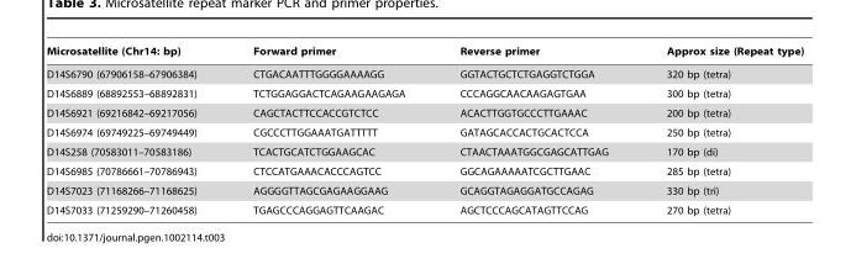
<table><thead><tr><td>Microsatellite (Chr14: bp)</td><td>Forward primer</td><td>Reverse primer</td><td>Approx size (Repeat type)</td></tr></thead><tbody><tr><td>D14S6790 (67906158–67906384)</td><td>CTGACAATTTGGGGAAAAGG</td><td>GGTACTGCTCTGAGGTCTGGA</td><td>320 bp (tetra)</td></tr><tr><td>D14S6889 (68892553–68892831)</td><td>TCTGGAGGACTCAGAAGAAGAGA</td><td>CCCAGGCAACAAGAGTGAA</td><td>300 bp (tetra)</td></tr><tr><td>D14S6921 (69216842–69217056)</td><td>CAGCTACTTCCACCGTCTCC</td><td>ACACTTGGTGCCCTTGAAAC</td><td>200 bp (tetra)</td></tr><tr><td>D14S6974 (69749225–69749449)</td><td>CGCCCTTGGAAATGATTTTT</td><td>GATAGCACCACTGCACTCCA</td><td>250 bp (tetra)</td></tr><tr><td>D14S258 (70583011–70583186)</td><td>TCACTGCATCTGGAAGCAC</td><td>CTAACTAAATGGCGAGCATTGAG</td><td>170 bp (di)</td></tr><tr><td>D14S6985 (70786661–70786943)</td><td>CTCCATGAAACACCCAGTCC</td><td>GGCAGAAAAATCGCTTGAAC</td><td>285 bp (tetra)</td></tr><tr><td>D14S7023 (71168266–71168625)</td><td>AGGGGTTAGCGAGAAGGAAG</td><td>GCAGGTAGAGGATGCCAGAG</td><td>330 bp (tri)</td></tr><tr><td>D14S7033 (71259290–71260458)</td><td>TGAGCCCAGGAGTTCAAGAC</td><td>AGCTCCCAGCATAGTTCCAG</td><td>270 bp (tetra)</td></tr></tbody></table>